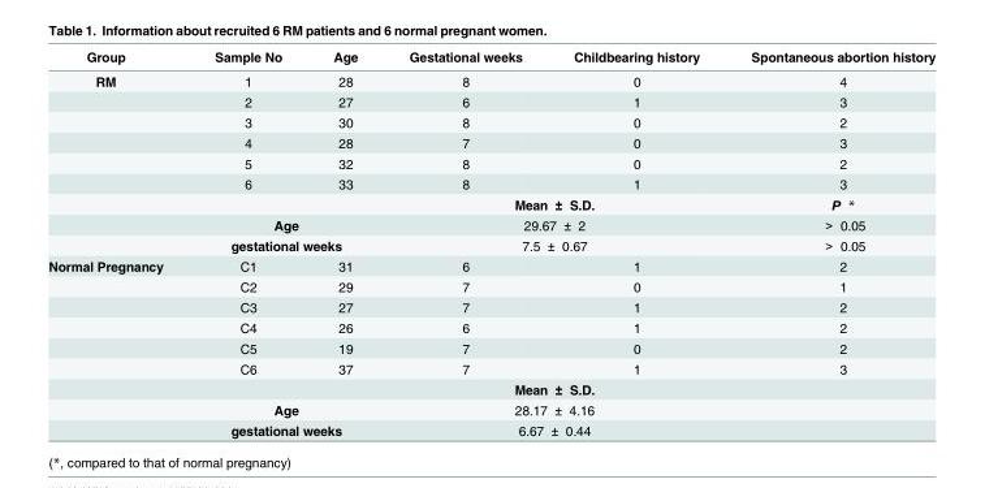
<table><thead><tr><td>Group</td><td>Sample No</td><td>Age</td><td>Gestational weeks</td><td>Childbearing history</td><td>Spontaneous abortion history</td></tr></thead><tbody><tr><td rowspan="9">RM</td><td>1</td><td>28</td><td>8</td><td>0</td><td>4</td></tr><tr><td>2</td><td>27</td><td>6</td><td>1</td><td>3</td></tr><tr><td>3</td><td>30</td><td>8</td><td>0</td><td>2</td></tr><tr><td>4</td><td>28</td><td>7</td><td>0</td><td>3</td></tr><tr><td>5</td><td>32</td><td>8</td><td>0</td><td>2</td></tr><tr><td>6</td><td>33</td><td>8</td><td>1</td><td>3</td></tr><tr><td colspan="2"></td><td colspan="2">Mean ± S.D.</td><td>P *</td></tr><tr><td colspan="2">Age</td><td colspan="2">29.67 ± 2</td><td>&gt; 0.05</td></tr><tr><td colspan="2">gestational weeks</td><td colspan="2">7.5 ± 0.67</td><td>&gt; 0.05</td></tr><tr><td rowspan="9">Normal Pregnancy</td><td>C1</td><td>31</td><td>6</td><td>1</td><td>2</td></tr><tr><td>C2</td><td>29</td><td>7</td><td>0</td><td>1</td></tr><tr><td>C3</td><td>27</td><td>7</td><td>1</td><td>2</td></tr><tr><td>C4</td><td>26</td><td>6</td><td>1</td><td>2</td></tr><tr><td>C5</td><td>19</td><td>7</td><td>0</td><td>2</td></tr><tr><td>C6</td><td>37</td><td>7</td><td>1</td><td>3</td></tr><tr><td colspan="2"></td><td colspan="2">Mean ± S.D.</td><td></td></tr><tr><td colspan="2">Age</td><td colspan="2">28.17 ± 4.16</td><td></td></tr><tr><td colspan="2">gestational weeks</td><td colspan="2">6.67 ± 0.44</td><td></td></tr></tbody></table>